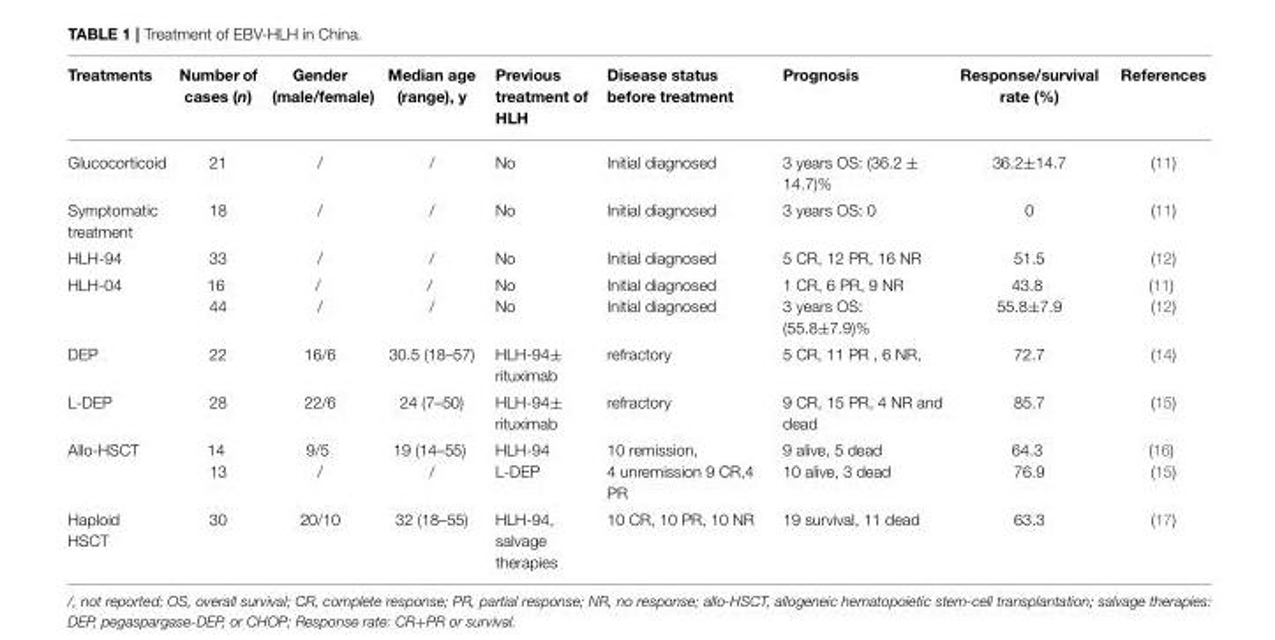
<table><thead><tr><td>Treatments</td><td>Number of cases (n)</td><td>Gender (male/female)</td><td>Median age (range), y</td><td>Previous treatment of HLH</td><td>Disease status before treatment</td><td>Prognosis</td><td>Response/survival rate (%)</td><td>References</td></tr></thead><tbody><tr><td>Glucocorticoid</td><td>21</td><td>/</td><td>/</td><td>No</td><td>Initial diagnosed</td><td>3 years OS: (36.2 ± 14.7)%</td><td>36.2±14.7</td><td>(11)</td></tr><tr><td>Symptomatic treatment</td><td>18</td><td>/</td><td>/</td><td>No</td><td>Initial diagnosed</td><td>3 years OS: 0</td><td>0</td><td>(11)</td></tr><tr><td>HLH-94</td><td>33</td><td>/</td><td>/</td><td>No</td><td>Initial diagnosed</td><td>5 CR, 12 PR, 16 NR</td><td>51.5</td><td>(12)</td></tr><tr><td>HLH-04</td><td>16 44</td><td>/ /</td><td>/ /</td><td>No No</td><td>Initial diagnosed Initial diagnosed</td><td>1 CR, 6 PR, 9 NR 3 years OS: (55.8±7.9)%</td><td>43.8 55.8±7.9</td><td>(11) (12)</td></tr><tr><td>DEP</td><td>22</td><td>16/6</td><td>30.5 (18–57)</td><td>HLH-94± rituximab</td><td>refractory</td><td>5 CR, 11 PR , 6 NR,</td><td>72.7</td><td>(14)</td></tr><tr><td>L-DEP</td><td>28</td><td>22/6</td><td>24 (7–50)</td><td>HLH-94± rituximab</td><td>refractory</td><td>9 CR, 15 PR, 4 NR and dead</td><td>85.7</td><td>(15)</td></tr><tr><td>Allo-HSCT</td><td>14 13</td><td>9/5 /</td><td>19 (14–55) /</td><td>HLH-94 L-DEP</td><td>10 remission, 4 unremission 9 CR,4 PR</td><td>9 alive, 5 dead 10 alive, 3 dead</td><td>64.3 76.9</td><td>(16) (15)</td></tr><tr><td>Haploid HSCT</td><td>30</td><td>20/10</td><td>32 (18–55)</td><td>HLH-94, salvage therapies</td><td>10 CR, 10 PR, 10 NR</td><td>19 survival, 11 dead</td><td>63.3</td><td>(17)</td></tr></tbody></table>